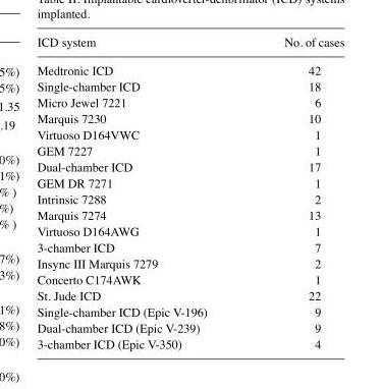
<table><thead><tr><td>ICD system</td><td>No. of cases</td></tr></thead><tbody><tr><td>Medtronic ICD</td><td>42</td></tr><tr><td>Single-chamber ICD</td><td>18</td></tr><tr><td>Micro Jewel 7221</td><td>6</td></tr><tr><td>Marquis 7230</td><td>10</td></tr><tr><td>Virtuoso D164VWC</td><td>1</td></tr><tr><td>GEM 7227</td><td>1</td></tr><tr><td>Dual-chamber ICD</td><td>17</td></tr><tr><td>GEM DR 7271</td><td>1</td></tr><tr><td>Intrinsic 7288</td><td>2</td></tr><tr><td>Marquis 7274</td><td>13</td></tr><tr><td>Virtuoso D164AWG</td><td>1</td></tr><tr><td>3-chamber ICD</td><td>7</td></tr><tr><td>Insync III Marquis 7279</td><td>2</td></tr><tr><td>Concerto C174AWK</td><td>1</td></tr><tr><td>St. Jude ICD</td><td>22</td></tr><tr><td>Single-chamber ICD (Epic V-196)</td><td>9</td></tr><tr><td>Dual-chamber ICD (Epic V-239)</td><td>9</td></tr><tr><td>3-chamber ICD (Epic V-350)</td><td>4</td></tr></tbody></table>